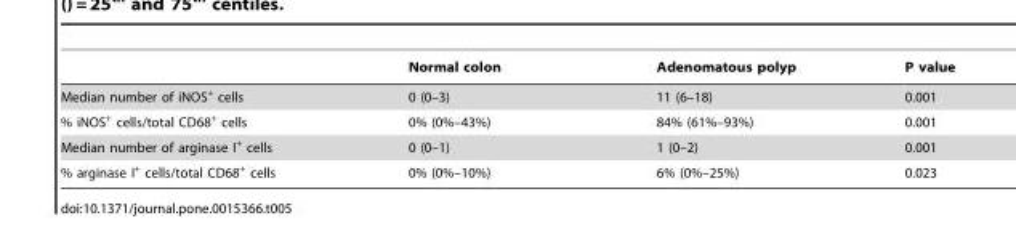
<table><thead><tr><td></td><td>Normal colon</td><td>Adenomatous polyp</td><td>P value</td></tr></thead><tbody><tr><td>Median number of iNOS<sup>+</sup> cells</td><td>0 (0–3)</td><td>11 (6–18)</td><td>0.001</td></tr><tr><td>% iNOS<sup>+</sup> cells/total CD68<sup>+</sup> cells</td><td>0% (0%–43%)</td><td>84% (61%–93%)</td><td>0.001</td></tr><tr><td>Median number of arginase I<sup>+</sup> cells</td><td>0 (0–1)</td><td>1 (0–2)</td><td>0.001</td></tr><tr><td>% arginase I<sup>+</sup> cells/total CD68<sup>+</sup> cells</td><td>0% (0%–10%)</td><td>6% (0%–25%)</td><td>0.023</td></tr></tbody></table>